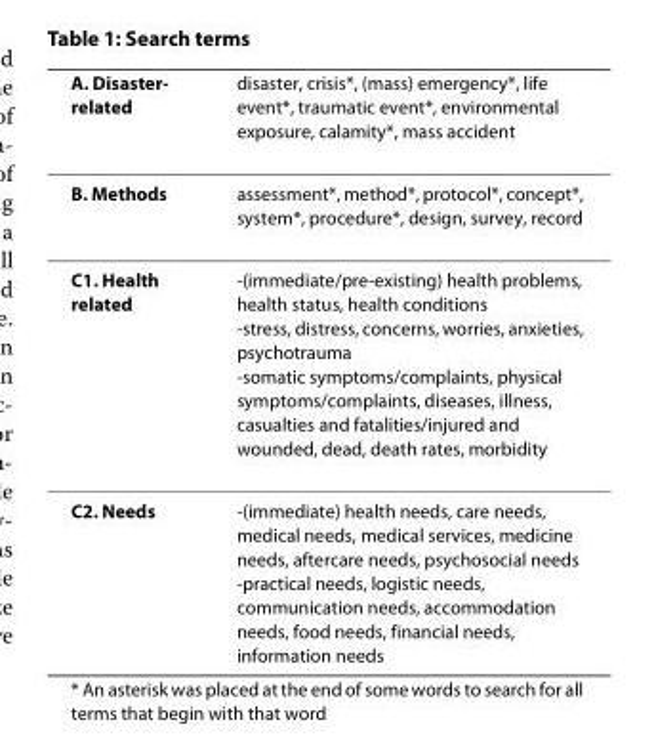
<table><thead><tr><td>A. Disaster- related</td><td>disaster, crisis*, (mass) emergency*, life event*, traumatic event*, environmental exposure, calamity*, mass accident</td></tr></thead><tbody><tr><td>B. Methods</td><td>assessment*, method*, protocol*, concept*, system*, procedure*, design, survey, record</td></tr><tr><td>C1. Health related</td><td>-(immediate/pre-existing) health problems, health status, health conditions -stress, distress, concerns, worries, anxieties, psychotrauma -somatic symptoms/complaints, physical symptoms/complaints, diseases, illness, casualties and fatalities/injured and wounded, dead, death rates, morbidity</td></tr><tr><td>C2. Needs</td><td>-(immediate) health needs, care needs, medical needs, medical services, medicine needs, aftercare needs, psychosocial needs -practical needs, logistic needs, communication needs, accommodation needs, food needs, financial needs, information needs</td></tr></tbody></table>